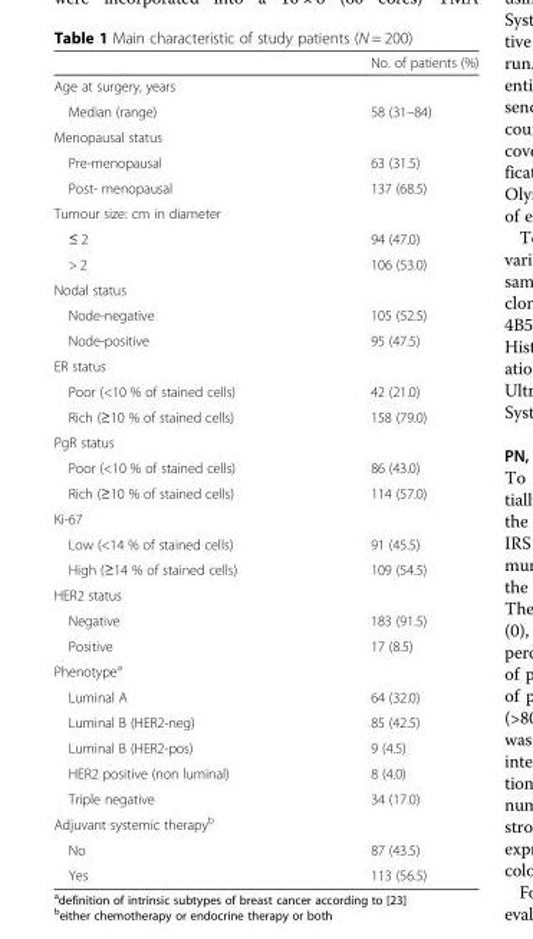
<table><thead><tr><td></td><td>No. of patients (%)</td></tr></thead><tbody><tr><td colspan="2">Age at surgery, years</td></tr><tr><td>Median (range)</td><td>58 (31–84)</td></tr><tr><td colspan="2">Menopausal status</td></tr><tr><td>Pre-menopausal</td><td>63 (31.5)</td></tr><tr><td>Post- menopausal</td><td>137 (68.5)</td></tr><tr><td colspan="2">Tumour size: cm in diameter</td></tr><tr><td>≤ 2</td><td>94 (47.0)</td></tr><tr><td>&gt; 2</td><td>106 (53.0)</td></tr><tr><td colspan="2">Nodal status</td></tr><tr><td>Node-negative</td><td>105 (52.5)</td></tr><tr><td>Node-positive</td><td>95 (47.5)</td></tr><tr><td colspan="2">ER status</td></tr><tr><td>Poor (&lt;10 % of stained cells)</td><td>42 (21.0)</td></tr><tr><td>Rich (≥10 % of stained cells)</td><td>158 (79.0)</td></tr><tr><td colspan="2">PgR status</td></tr><tr><td>Poor (&lt;10 % of stained cells)</td><td>86 (43.0)</td></tr><tr><td>Rich (≥10 % of stained cells)</td><td>114 (57.0)</td></tr><tr><td colspan="2">Ki-67</td></tr><tr><td>Low (&lt;14 % of stained cells)</td><td>91 (45.5)</td></tr><tr><td>High (≥14 % of stained cells)</td><td>109 (54.5)</td></tr><tr><td colspan="2">HER2 status</td></tr><tr><td>Negative</td><td>183 (91.5)</td></tr><tr><td>Positive</td><td>17 (8.5)</td></tr><tr><td colspan="2">Phenotype<sup>a</sup></td></tr><tr><td>Luminal A</td><td>64 (32.0)</td></tr><tr><td>Luminal B (HER2-neg)</td><td>85 (42.5)</td></tr><tr><td>Luminal B (HER2-pos)</td><td>9 (4.5)</td></tr><tr><td>HER2 positive (non luminal)</td><td>8 (4.0)</td></tr><tr><td>Triple negative</td><td>34 (17.0)</td></tr><tr><td colspan="2">Adjuvant systemic therapy<sup>b</sup></td></tr><tr><td>No</td><td>87 (43.5)</td></tr><tr><td>Yes</td><td>113 (56.5)</td></tr></tbody></table>